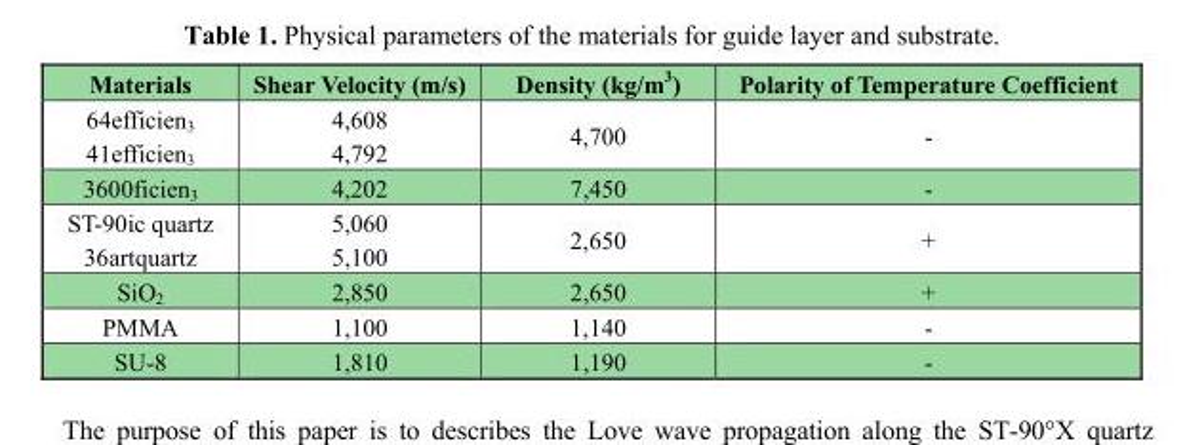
<table><thead><tr><td>Materials</td><td>Shear Velocity (m/s)</td><td>Density (kg/m<sup>3</sup>)</td><td>Polarity of Temperature Coefficient</td></tr></thead><tbody><tr><td>64efficien<sub>3</sub></td><td>4,608</td><td rowspan="2">4,700</td><td rowspan="2">-</td></tr><tr><td>41efficien<sub>3</sub></td><td>4,792</td></tr><tr><td>3600ficien<sub>3</sub></td><td>4,202</td><td>7,450</td><td>-</td></tr><tr><td>ST-90ic quartz</td><td>5,060</td><td rowspan="2">2,650</td><td rowspan="2">+</td></tr><tr><td>36artquartz</td><td>5,100</td></tr><tr><td>SiO<sub>2</sub></td><td>2,850</td><td>2,650</td><td>+</td></tr><tr><td>PMMA</td><td>1,100</td><td>1,140</td><td>-</td></tr><tr><td>SU-8</td><td>1,810</td><td>1,190</td><td>-</td></tr></tbody></table>